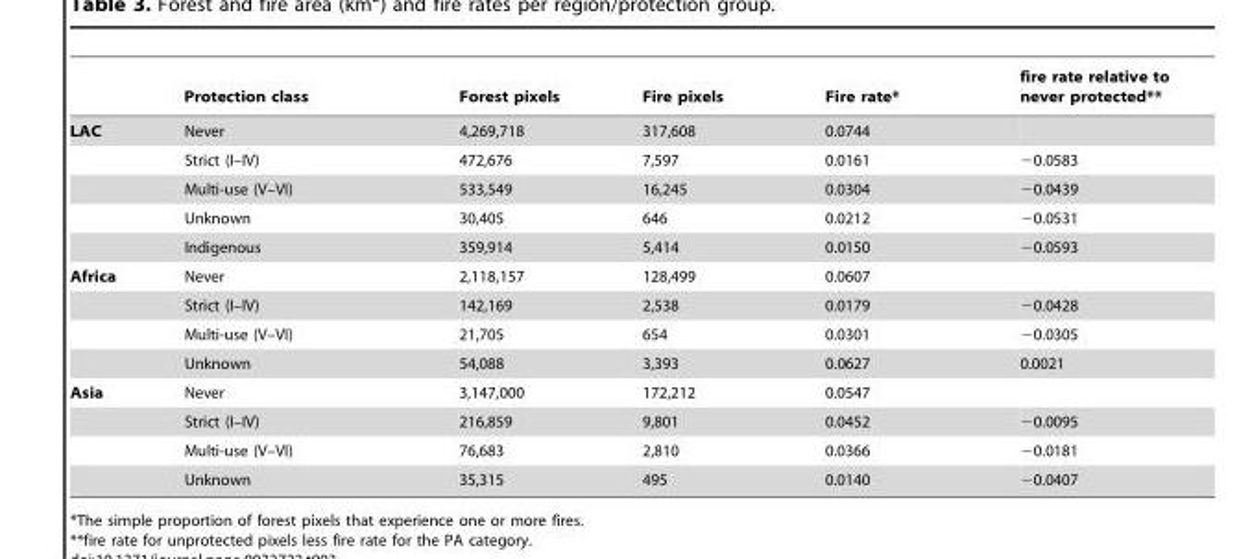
<table><thead><tr><td></td><td>Protection class</td><td>Forest pixels</td><td>Fire pixels</td><td>Fire rate*</td><td>fire rate relative to never protected**</td></tr></thead><tbody><tr><td rowspan="5">LAC</td><td>Never</td><td>4,269,718</td><td>317,608</td><td>0.0744</td><td></td></tr><tr><td>Strict (I–IV)</td><td>472,676</td><td>7,597</td><td>0.0161</td><td>−0.0583</td></tr><tr><td>Multi-use (V–VI)</td><td>533,549</td><td>16,245</td><td>0.0304</td><td>−0.0439</td></tr><tr><td>Unknown</td><td>30,405</td><td>646</td><td>0.0212</td><td>−0.0531</td></tr><tr><td>Indigenous</td><td>359,914</td><td>5,414</td><td>0.0150</td><td>−0.0593</td></tr><tr><td rowspan="4">Africa</td><td>Never</td><td>2,118,157</td><td>128,499</td><td>0.0607</td><td></td></tr><tr><td>Strict (I–IV)</td><td>142,169</td><td>2,538</td><td>0.0179</td><td>−0.0428</td></tr><tr><td>Multi-use (V–VI)</td><td>21,705</td><td>654</td><td>0.0301</td><td>−0.0305</td></tr><tr><td>Unknown</td><td>54,088</td><td>3,393</td><td>0.0627</td><td>0.0021</td></tr><tr><td rowspan="4">Asia</td><td>Never</td><td>3,147,000</td><td>172,212</td><td>0.0547</td><td></td></tr><tr><td>Strict (I–IV)</td><td>216,859</td><td>9,801</td><td>0.0452</td><td>−0.0095</td></tr><tr><td>Multi-use (V–VI)</td><td>76,683</td><td>2,810</td><td>0.0366</td><td>−0.0181</td></tr><tr><td>Unknown</td><td>35,315</td><td>495</td><td>0.0140</td><td>−0.0407</td></tr></tbody></table>